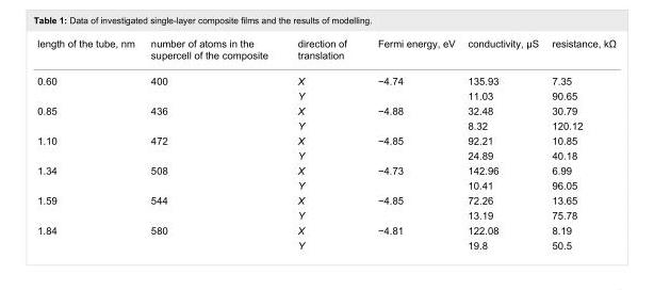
<table><tbody><tr><td>length of the tube, nm</td><td>number of atoms in the supercell of the composite</td><td>direction of translation</td><td>Fermi energy, eV</td><td>conductivity, μS</td><td>resistance, kΩ</td></tr><tr><td rowspan="2">0.60</td><td rowspan="2">400</td><td>X</td><td rowspan="2">−4.74</td><td>135.93</td><td>7.35</td></tr><tr><td>Y</td><td>11.03</td><td>90.65</td></tr><tr><td rowspan="2">0.85</td><td rowspan="2">436</td><td>X</td><td rowspan="2">−4.88</td><td>32.48</td><td>30.79</td></tr><tr><td>Y</td><td>8.32</td><td>120.12</td></tr><tr><td rowspan="2">1.10</td><td rowspan="2">472</td><td>X</td><td rowspan="2">−4.85</td><td>92.21</td><td>10.85</td></tr><tr><td>Y</td><td>24.89</td><td>40.18</td></tr><tr><td rowspan="2">1.34</td><td rowspan="2">508</td><td>X</td><td rowspan="2">−4.73</td><td>142.96</td><td>6.99</td></tr><tr><td>Y</td><td>10.41</td><td>96.05</td></tr><tr><td rowspan="2">1.59</td><td rowspan="2">544</td><td>X</td><td rowspan="2">−4.85</td><td>72.26</td><td>13.65</td></tr><tr><td>Y</td><td>13.19</td><td>75.78</td></tr><tr><td rowspan="2">1.84</td><td rowspan="2">580</td><td>X</td><td rowspan="2">−4.81</td><td>122.08</td><td>8.19</td></tr><tr><td>Y</td><td>19.8</td><td>50.5</td></tr></tbody></table>